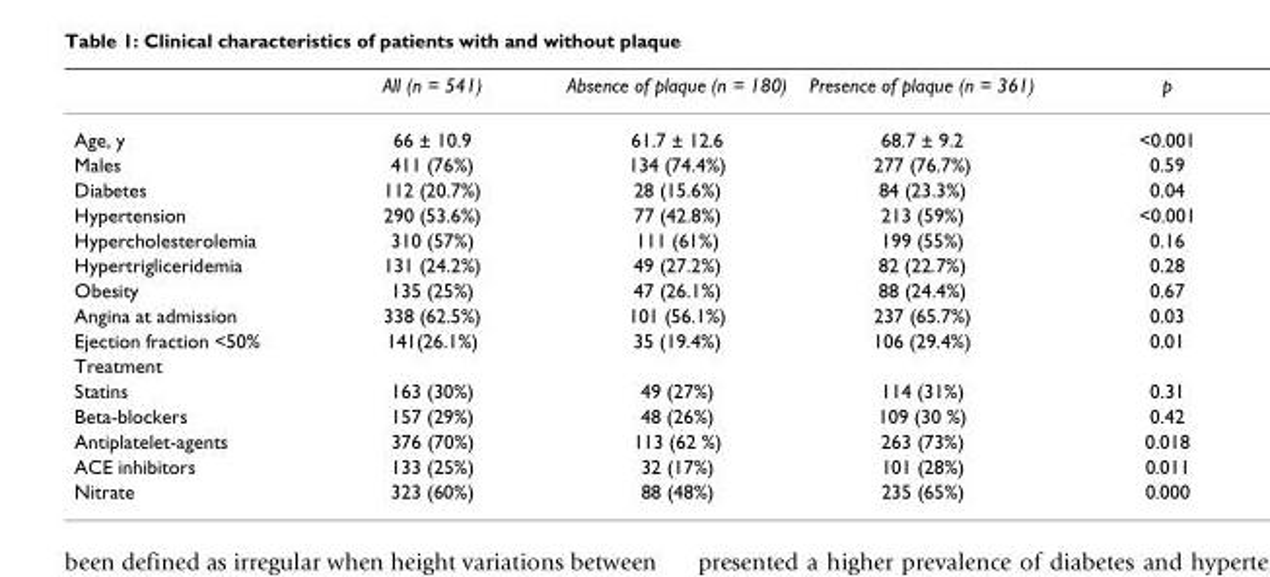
<table><thead><tr><td></td><td>All (n = 541)</td><td>Absence of plaque (n = 180)</td><td>Presence of plaque (n = 361)</td><td>p</td></tr></thead><tbody><tr><td>Age, y</td><td>66 ± 10.9</td><td>61.7 ± 12.6</td><td>68.7 ± 9.2</td><td>&lt;0.001</td></tr><tr><td>Males</td><td>411 (76%)</td><td>134 (74.4%)</td><td>277 (76.7%)</td><td>0.59</td></tr><tr><td>Diabetes</td><td>112 (20.7%)</td><td>28 (15.6%)</td><td>84 (23.3%)</td><td>0.04</td></tr><tr><td>Hypertension</td><td>290 (53.6%)</td><td>77 (42.8%)</td><td>213 (59%)</td><td>&lt;0.001</td></tr><tr><td>Hypercholesterolemia</td><td>310 (57%)</td><td>111 (61%)</td><td>199 (55%)</td><td>0.16</td></tr><tr><td>Hypertrigliceridemia</td><td>131 (24.2%)</td><td>49 (27.2%)</td><td>82 (22.7%)</td><td>0.28</td></tr><tr><td>Obesity</td><td>135 (25%)</td><td>47 (26.1%)</td><td>88 (24.4%)</td><td>0.67</td></tr><tr><td>Angina at admission</td><td>338 (62.5%)</td><td>101 (56.1%)</td><td>237 (65.7%)</td><td>0.03</td></tr><tr><td>Ejection fraction &lt;50%</td><td>141(26.1%)</td><td>35 (19.4%)</td><td>106 (29.4%)</td><td>0.01</td></tr><tr><td colspan="5">Treatment</td></tr><tr><td>Statins</td><td>163 (30%)</td><td>49 (27%)</td><td>114 (31%)</td><td>0.31</td></tr><tr><td>Beta-blockers</td><td>157 (29%)</td><td>48 (26%)</td><td>109 (30 %)</td><td>0.42</td></tr><tr><td>Antiplatelet-agents</td><td>376 (70%)</td><td>113 (62 %)</td><td>263 (73%)</td><td>0.018</td></tr><tr><td>ACE inhibitors</td><td>133 (25%)</td><td>32 (17%)</td><td>101 (28%)</td><td>0.011</td></tr><tr><td>Nitrate</td><td>323 (60%)</td><td>88 (48%)</td><td>235 (65%)</td><td>0.000</td></tr></tbody></table>